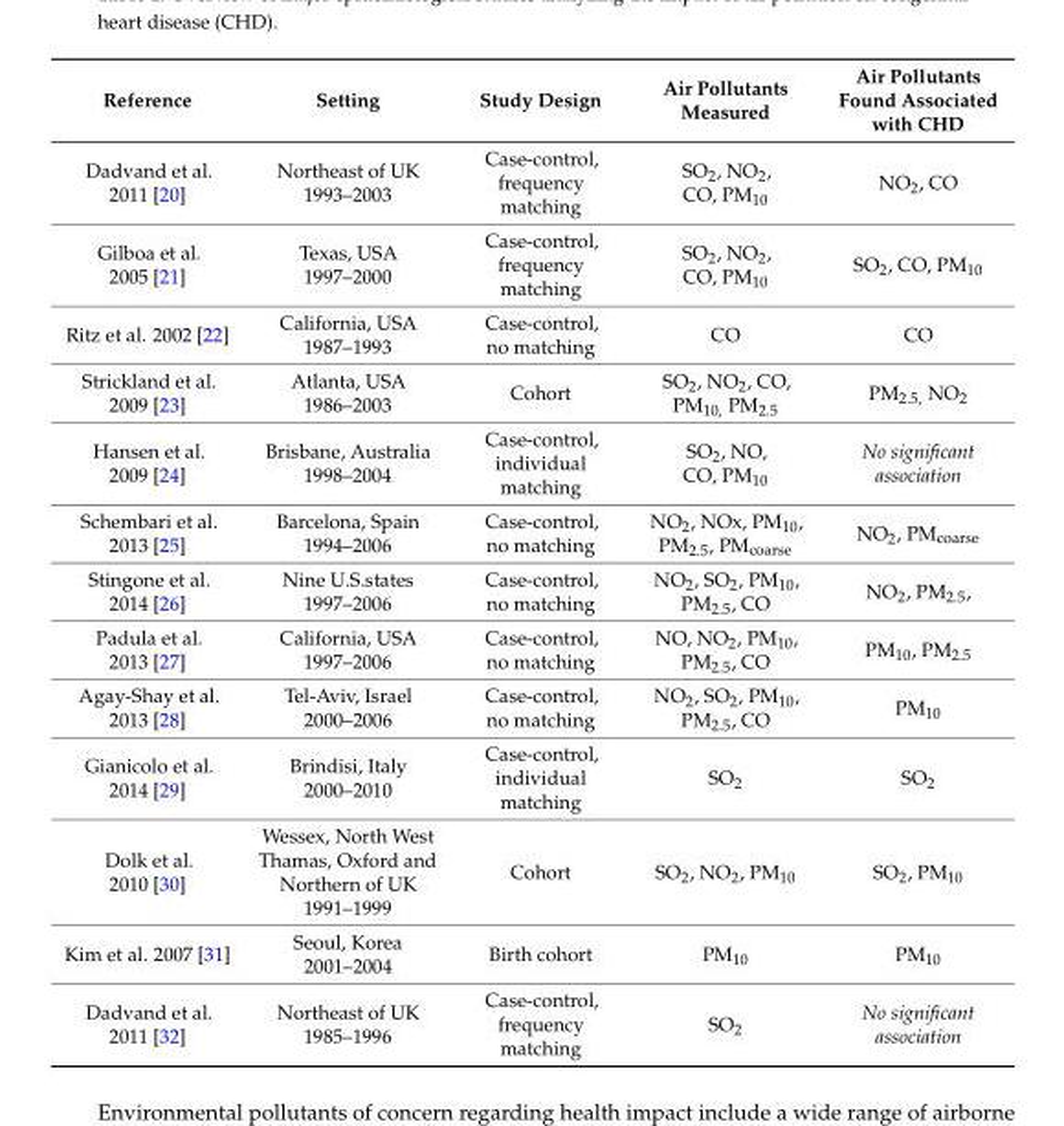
<table><thead><tr><td>Reference</td><td>Setting</td><td>Study Design</td><td>Air Pollutants Measured</td><td>Air Pollutants Found Associated with CHD</td></tr></thead><tbody><tr><td>Dadvand et al. 2011 [20]</td><td>Northeast of UK 1993–2003</td><td>Case-control, frequency matching</td><td>SO<sub>2</sub>, NO<sub>2</sub>, CO, PM<sub>10</sub></td><td>NO<sub>2</sub>, CO</td></tr><tr><td>Gilboa et al. 2005 [21]</td><td>Texas, USA 1997–2000</td><td>Case-control, frequency matching</td><td>SO<sub>2</sub>, NO<sub>2</sub>, CO, PM<sub>10</sub></td><td>SO<sub>2</sub>, CO, PM<sub>10</sub></td></tr><tr><td>Ritz et al. 2002 [22]</td><td>California, USA 1987–1993</td><td>Case-control, no matching</td><td>CO</td><td>CO</td></tr><tr><td>Strickland et al. 2009 [23]</td><td>Atlanta, USA 1986–2003</td><td>Cohort</td><td>SO<sub>2</sub>, NO<sub>2</sub>, CO, PM<sub>10,</sub> PM<sub>2.5</sub></td><td>PM<sub>2.5,</sub> NO<sub>2</sub></td></tr><tr><td>Hansen et al. 2009 [24]</td><td>Brisbane, Australia 1998–2004</td><td>Case-control, individual matching</td><td>SO<sub>2</sub>, NO, CO, PM<sub>10</sub></td><td>No significant association</td></tr><tr><td>Schembari et al. 2013 [25]</td><td>Barcelona, Spain 1994–2006</td><td>Case-control, no matching</td><td>NO<sub>2</sub>, NOx, PM<sub>10</sub>, PM<sub>2.5</sub>, PM<sub>coarse</sub></td><td>NO<sub>2</sub>, PM<sub>coarse</sub></td></tr><tr><td>Stingone et al. 2014 [26]</td><td>Nine U.S.states 1997–2006</td><td>Case-control, no matching</td><td>NO<sub>2</sub>, SO<sub>2</sub>, PM<sub>10</sub>, PM<sub>2.5</sub>, CO</td><td>NO<sub>2</sub>, PM<sub>2.5</sub>,</td></tr><tr><td>Padula et al. 2013 [27]</td><td>California, USA 1997–2006</td><td>Case-control, no matching</td><td>NO, NO<sub>2</sub>, PM<sub>10</sub>, PM<sub>2.5</sub>, CO</td><td>PM<sub>10</sub>, PM<sub>2.5</sub></td></tr><tr><td>Agay-Shay et al. 2013 [28]</td><td>Tel-Aviv, Israel 2000–2006</td><td>Case-control, no matching</td><td>NO<sub>2</sub>, SO<sub>2</sub>, PM<sub>10</sub>, PM<sub>2.5</sub>, CO</td><td>PM<sub>10</sub></td></tr><tr><td>Gianicolo et al. 2014 [29]</td><td>Brindisi, Italy 2000–2010</td><td>Case-control, individual matching</td><td>SO<sub>2</sub></td><td>SO<sub>2</sub></td></tr><tr><td>Dolk et al. 2010 [30]</td><td>Wessex, North West Thamas, Oxford and Northern of UK 1991–1999</td><td>Cohort</td><td>SO<sub>2</sub>, NO<sub>2</sub>, PM<sub>10</sub></td><td>SO<sub>2</sub>, PM<sub>10</sub></td></tr><tr><td>Kim et al. 2007 [31]</td><td>Seoul, Korea 2001–2004</td><td>Birth cohort</td><td>PM<sub>10</sub></td><td>PM<sub>10</sub></td></tr><tr><td>Dadvand et al. 2011 [32]</td><td>Northeast of UK 1985–1996</td><td>Case-control, frequency matching</td><td>SO<sub>2</sub></td><td>No significant association</td></tr></tbody></table>